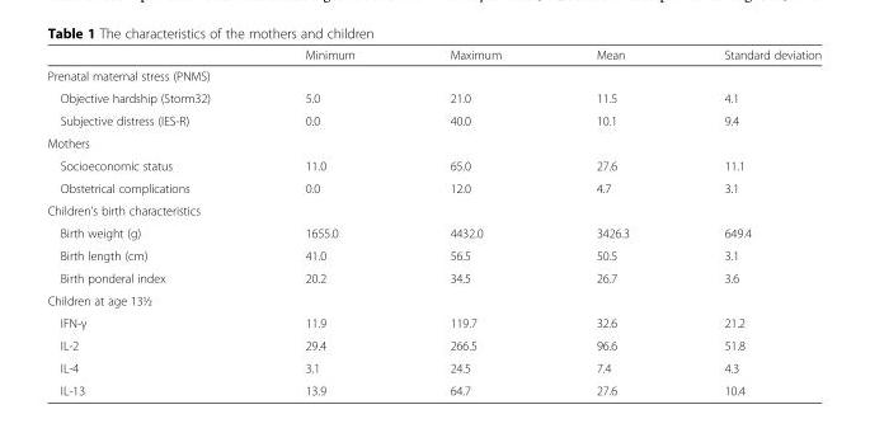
<table><thead><tr><td></td><td>Minimum</td><td>Maximum</td><td>Mean</td><td>Standard deviation</td></tr></thead><tbody><tr><td colspan="5">Prenatal maternal stress (PNMS)</td></tr><tr><td>Objective hardship (Storm32)</td><td>5.0</td><td>21.0</td><td>11.5</td><td>4.1</td></tr><tr><td>Subjective distress (IES-R)</td><td>0.0</td><td>40.0</td><td>10.1</td><td>9.4</td></tr><tr><td colspan="5">Mothers</td></tr><tr><td>Socioeconomic status</td><td>11.0</td><td>65.0</td><td>27.6</td><td>11.1</td></tr><tr><td>Obstetrical complications</td><td>0.0</td><td>12.0</td><td>4.7</td><td>3.1</td></tr><tr><td colspan="5">Children’s birth characteristics</td></tr><tr><td>Birth weight (g)</td><td>1655.0</td><td>4432.0</td><td>3426.3</td><td>649.4</td></tr><tr><td>Birth length (cm)</td><td>41.0</td><td>56.5</td><td>50.5</td><td>3.1</td></tr><tr><td>Birth ponderal index</td><td>20.2</td><td>34.5</td><td>26.7</td><td>3.6</td></tr><tr><td colspan="5">Children at age 13½</td></tr><tr><td>IFN-γ</td><td>11.9</td><td>119.7</td><td>32.6</td><td>21.2</td></tr><tr><td>IL-2</td><td>29.4</td><td>266.5</td><td>96.6</td><td>51.8</td></tr><tr><td>IL-4</td><td>3.1</td><td>24.5</td><td>7.4</td><td>4.3</td></tr><tr><td>IL-13</td><td>13.9</td><td>64.7</td><td>27.6</td><td>10.4</td></tr></tbody></table>